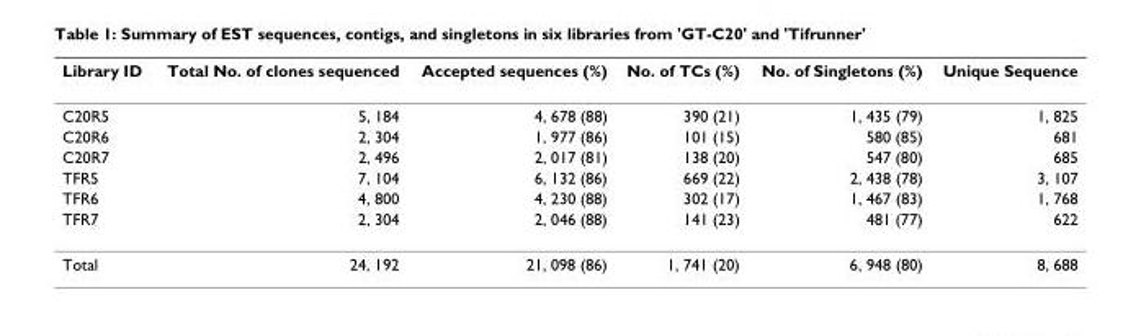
<table><thead><tr><td>Library ID</td><td>Total No. of clones sequenced</td><td>Accepted sequences (%)</td><td>No. of TCs (%)</td><td>No. of Singletons (%)</td><td>Unique Sequence</td></tr></thead><tbody><tr><td>C20R5</td><td>5, 184</td><td>4, 678 (88)</td><td>390 (21)</td><td>1, 435 (79)</td><td>1, 825</td></tr><tr><td>C20R6</td><td>2, 304</td><td>1, 977 (86)</td><td>101 (15)</td><td>580 (85)</td><td>681</td></tr><tr><td>C20R7</td><td>2, 496</td><td>2, 017 (81)</td><td>138 (20)</td><td>547 (80)</td><td>685</td></tr><tr><td>TFR5</td><td>7, 104</td><td>6, 132 (86)</td><td>669 (22)</td><td>2, 438 (78)</td><td>3, 107</td></tr><tr><td>TFR6</td><td>4, 800</td><td>4, 230 (88)</td><td>302 (17)</td><td>1, 467 (83)</td><td>1, 768</td></tr><tr><td>TFR7</td><td>2, 304</td><td>2, 046 (88)</td><td>141 (23)</td><td>481 (77)</td><td>622</td></tr><tr><td>Total</td><td>24, 192</td><td>21, 098 (86)</td><td>1, 741 (20)</td><td>6, 948 (80)</td><td>8, 688</td></tr></tbody></table>